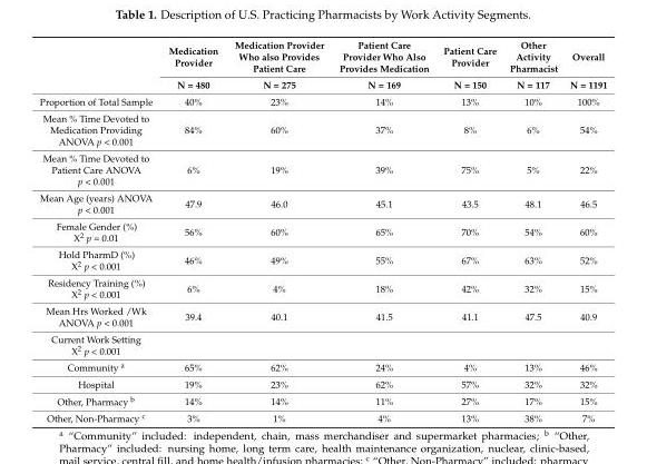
<table><thead><tr><td rowspan="2"></td><td rowspan="2">Medication Provider N = 480</td><td rowspan="2">Medication Provider Who also Provides Patient Care N = 275</td><td rowspan="2">Patient Care Provider Who Also Provides Medication N = 169</td><td rowspan="2">Patient Care Provider N = 150</td><td rowspan="2">Other Activity Pharmacist N = 117</td><td rowspan="2">Overall N = 1191</td></tr><tr></tr></thead><tbody><tr><td>Proportion of Total Sample</td><td>40%</td><td>23%</td><td>14%</td><td>13%</td><td>10%</td><td>100%</td></tr><tr><td>Mean % Time Devoted to Medication Providing ANOVA p &lt; 0.001</td><td>84%</td><td>60%</td><td>37%</td><td>8%</td><td>6%</td><td>54%</td></tr><tr><td>Mean % Time Devoted to Patient Care ANOVA p &lt; 0.001</td><td>6%</td><td>19%</td><td>39%</td><td>75%</td><td>5%</td><td>22%</td></tr><tr><td>Mean Age (years) ANOVA p &lt; 0.001</td><td>47.9</td><td>46.0</td><td>45.1</td><td>43.5</td><td>48.1</td><td>46.5</td></tr><tr><td>Female Gender (%) X<sup>2</sup> p = 0.01</td><td>56%</td><td>60%</td><td>65%</td><td>70%</td><td>54%</td><td>60%</td></tr><tr><td>Hold PharmD (%) X<sup>2</sup> p &lt; 0.001</td><td>46%</td><td>49%</td><td>55%</td><td>67%</td><td>63%</td><td>52%</td></tr><tr><td>Residency Training (%) X<sup>2</sup> p &lt; 0.001</td><td>6%</td><td>4%</td><td>18%</td><td>42%</td><td>32%</td><td>15%</td></tr><tr><td>Mean Hrs Worked /Wk ANOVA p &lt; 0.001</td><td>39.4</td><td>40.1</td><td>41.5</td><td>41.1</td><td>47.5</td><td>40.9</td></tr><tr><td colspan="7">Current Work Setting X<sup>2</sup> p &lt; 0.001</td></tr><tr><td>Community <sup>a</sup></td><td>65%</td><td>62%</td><td>24%</td><td>4%</td><td>13%</td><td>46%</td></tr><tr><td>Hospital</td><td>19%</td><td>23%</td><td>62%</td><td>57%</td><td>32%</td><td>32%</td></tr><tr><td>Other, Pharmacy <sup>b</sup></td><td>14%</td><td>14%</td><td>11%</td><td>27%</td><td>17%</td><td>15%</td></tr><tr><td>Other, Non-Pharmacy <sup>c</sup></td><td>3%</td><td>1%</td><td>4%</td><td>13%</td><td>38%</td><td>7%</td></tr></tbody></table>